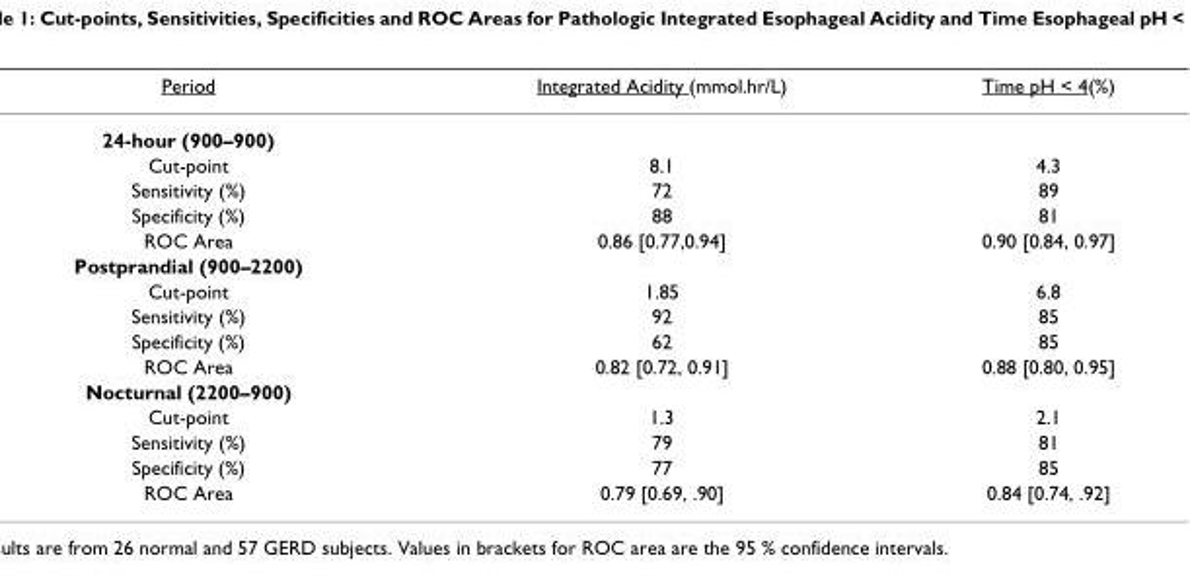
<table><thead><tr><td>Period</td><td>Integrated Acidity (mmol.hr/L)</td><td>Time pH &lt; 4(%)</td></tr></thead><tbody><tr><td colspan="3">24-hour (900–900)</td></tr><tr><td>Cut-point</td><td>8.1</td><td>4.3</td></tr><tr><td>Sensitivity (%)</td><td>72</td><td>89</td></tr><tr><td>Specificity (%)</td><td>88</td><td>81</td></tr><tr><td>ROC Area</td><td>0.86 [0.77,0.94]</td><td>0.90 [0.84, 0.97]</td></tr><tr><td colspan="3">Postprandial (900–2200)</td></tr><tr><td>Cut-point</td><td>1.85</td><td>6.8</td></tr><tr><td>Sensitivity (%)</td><td>92</td><td>85</td></tr><tr><td>Specificity (%)</td><td>62</td><td>85</td></tr><tr><td>ROC Area</td><td>0.82 [0.72, 0.91]</td><td>0.88 [0.80, 0.95]</td></tr><tr><td colspan="3">Nocturnal (2200–900)</td></tr><tr><td>Cut-point</td><td>1.3</td><td>2.1</td></tr><tr><td>Sensitivity (%)</td><td>79</td><td>81</td></tr><tr><td>Specificity (%)</td><td>77</td><td>85</td></tr><tr><td>ROC Area</td><td>0.79 [0.69, .90]</td><td>0.84 [0.74, .92]</td></tr></tbody></table>